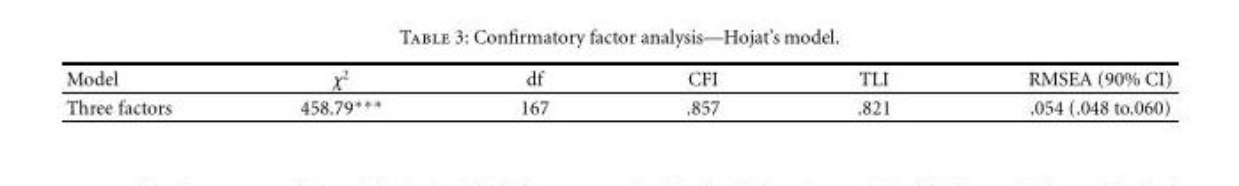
<table><thead><tr><td>Model</td><td>χ<sup>2</sup></td><td>df</td><td>CFI</td><td>TLI</td><td>RMSEA (90% CI)</td></tr></thead><tbody><tr><td>Three factors</td><td>458.79∗∗∗</td><td>167</td><td>.857</td><td>.821</td><td>.054 (.048 to.060)</td></tr></tbody></table>